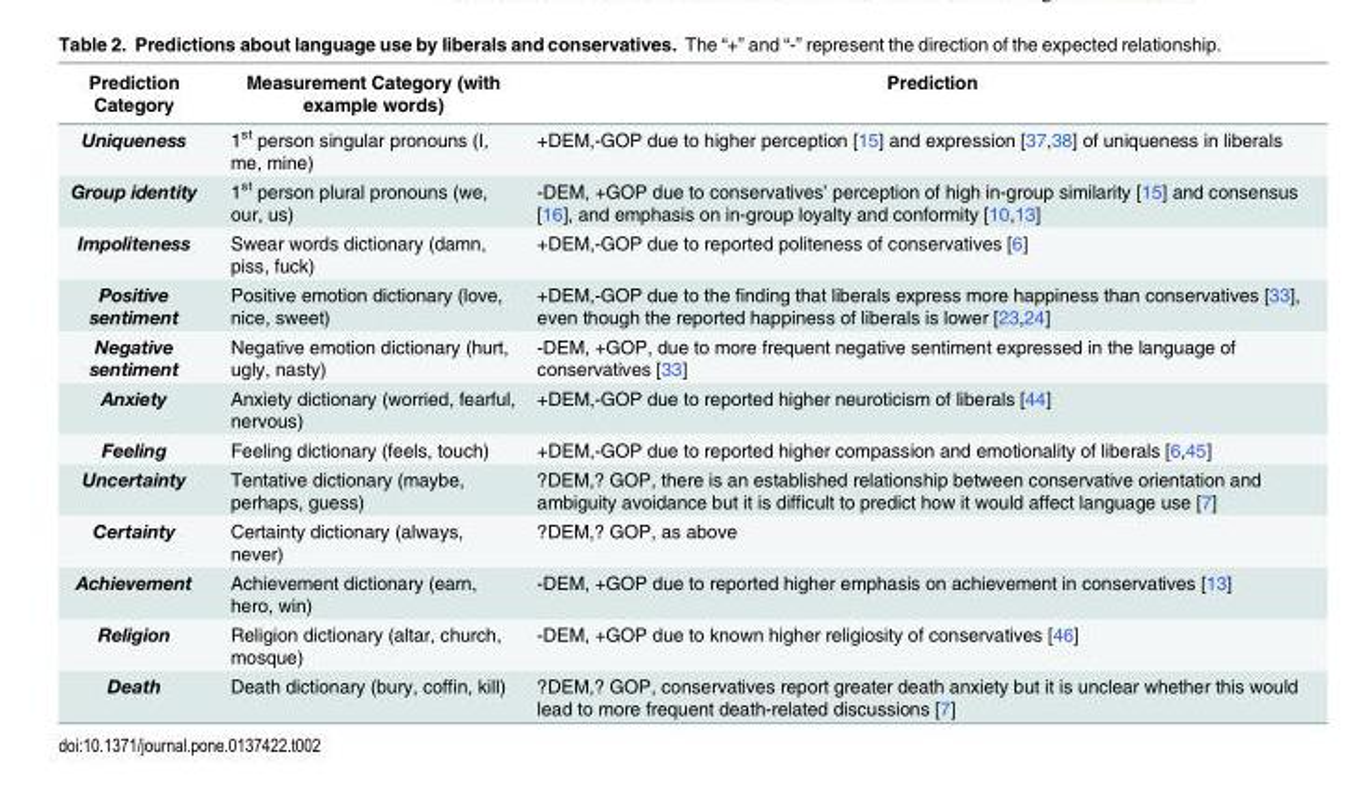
<table><thead><tr><td>Prediction Category</td><td>Measurement Category (with example words)</td><td>Prediction</td></tr></thead><tbody><tr><td>Uniqueness</td><td>1<sup>st</sup> person singular pronouns (I, me, mine)</td><td>+DEM,-GOP due to higher perception [15] and expression [37,38] of uniqueness in liberals</td></tr><tr><td>Group identity</td><td>1<sup>st</sup> person plural pronouns (we, our, us)</td><td>-DEM, +GOP due to conservatives’ perception of high in-group similarity [15] and consensus [16], and emphasis on in-group loyalty and conformity [10,13]</td></tr><tr><td>Impoliteness</td><td>Swear words dictionary (damn, piss, fuck)</td><td>+DEM,-GOP due to reported politeness of conservatives [6]</td></tr><tr><td>Positive sentiment</td><td>Positive emotion dictionary (love, nice, sweet)</td><td>+DEM,-GOP due to the finding that liberals express more happiness than conservatives [33], even though the reported happiness of liberals is lower [23,24]</td></tr><tr><td>Negative sentiment</td><td>Negative emotion dictionary (hurt, ugly, nasty)</td><td>-DEM, +GOP, due to more frequent negative sentiment expressed in the language of conservatives [33]</td></tr><tr><td>Anxiety</td><td>Anxiety dictionary (worried, fearful, nervous)</td><td>+DEM,-GOP due to reported higher neuroticism of liberals [44]</td></tr><tr><td>Feeling</td><td>Feeling dictionary (feels, touch)</td><td>+DEM,-GOP due to reported higher compassion and emotionality of liberals [6,45]</td></tr><tr><td>Uncertainty</td><td>Tentative dictionary (maybe, perhaps, guess)</td><td>?DEM,? GOP, there is an established relationship between conservative orientation and ambiguity avoidance but it is difficult to predict how it would affect language use [7]</td></tr><tr><td>Certainty</td><td>Certainty dictionary (always, never)</td><td>?DEM,? GOP, as above</td></tr><tr><td>Achievement</td><td>Achievement dictionary (earn, hero, win)</td><td>-DEM, +GOP due to reported higher emphasis on achievement in conservatives [13]</td></tr><tr><td>Religion</td><td>Religion dictionary (altar, church, mosque)</td><td>-DEM, +GOP due to known higher religiosity of conservatives [46]</td></tr><tr><td>Death</td><td>Death dictionary (bury, coffin, kill)</td><td>?DEM,? GOP, conservatives report greater death anxiety but it is unclear whether this would lead to more frequent death-related discussions [7]</td></tr></tbody></table>